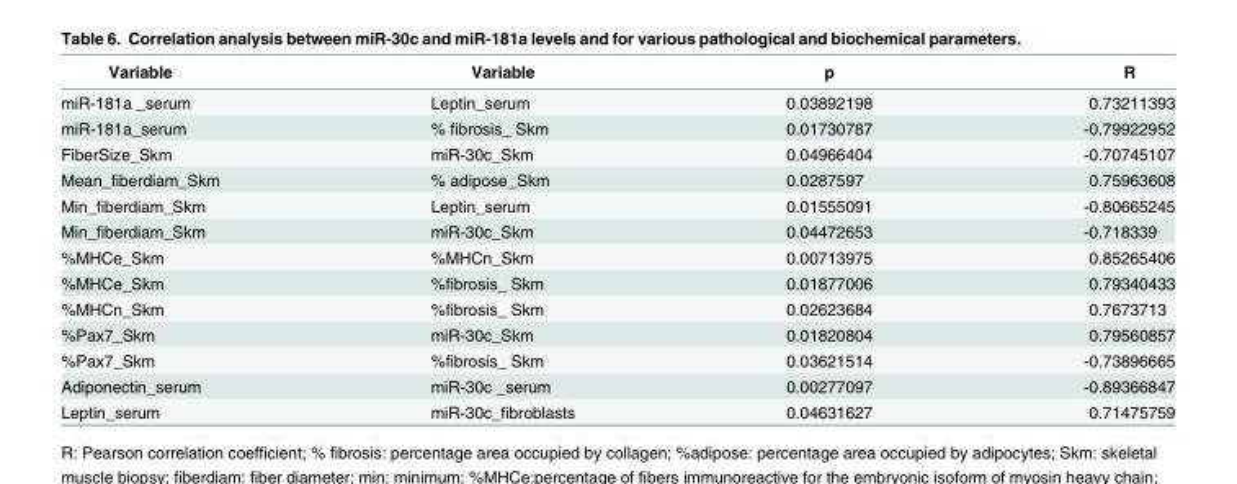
<table><thead><tr><td>Variable</td><td>Variable</td><td>p</td><td>R</td></tr></thead><tbody><tr><td>miR-181a _serum</td><td>Leptin_serum</td><td>0.03892198</td><td>0.73211393</td></tr><tr><td>miR-181a_serum</td><td>% fibrosis_ Skm</td><td>0.01730787</td><td>-0.79922952</td></tr><tr><td>FiberSize_Skm</td><td>miR-30c_Skm</td><td>0.04966404</td><td>-0.70745107</td></tr><tr><td>Mean_fiberdiam_Skm</td><td>% adipose_Skm</td><td>0.0287597</td><td>0.75963608</td></tr><tr><td>Min_fiberdiam_Skm</td><td>Leptin_serum</td><td>0.01555091</td><td>-0.80665245</td></tr><tr><td>Min_fiberdiam_Skm</td><td>miR-30c_Skm</td><td>0.04472653</td><td>-0.718339</td></tr><tr><td>%MHCe_Skm</td><td>%MHCn_Skm</td><td>0.00713975</td><td>0.85265406</td></tr><tr><td>%MHCe_Skm</td><td>%fibrosis_ Skm</td><td>0.01877006</td><td>0.79340433</td></tr><tr><td>%MHCn_Skm</td><td>%fibrosis_ Skm</td><td>0.02623684</td><td>0.7673713</td></tr><tr><td>%Pax7_Skm</td><td>miR-30c_Skm</td><td>0.01820804</td><td>0.79560857</td></tr><tr><td>%Pax7_Skm</td><td>%fibrosis_ Skm</td><td>0.03621514</td><td>-0.73896665</td></tr><tr><td>Adiponectin_serum</td><td>miR-30c _serum</td><td>0.00277097</td><td>-0.89366847</td></tr><tr><td>Leptin_serum</td><td>miR-30c_fibroblasts</td><td>0.04631627</td><td>0.71475759</td></tr></tbody></table>